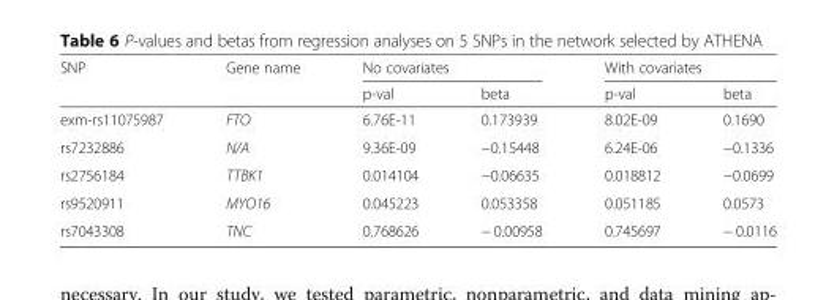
<table><thead><tr><td rowspan="2">SNP</td><td rowspan="2">Gene name</td><td colspan="2">No covariates</td><td colspan="2">With covariates</td></tr><tr><td>p-val</td><td>beta</td><td>p-val</td><td>beta</td></tr></thead><tbody><tr><td>exm-rs11075987</td><td>FTO</td><td>6.76E-11</td><td>0.173939</td><td>8.02E-09</td><td>0.1690</td></tr><tr><td>rs7232886</td><td>N/A</td><td>9.36E-09</td><td>−0.15448</td><td>6.24E-06</td><td>−0.1336</td></tr><tr><td>rs2756184</td><td>TTBK1</td><td>0.014104</td><td>−0.06635</td><td>0.018812</td><td>−0.0699</td></tr><tr><td>rs9520911</td><td>MYO16</td><td>0.045223</td><td>0.053358</td><td>0.051185</td><td>0.0573</td></tr><tr><td>rs7043308</td><td>TNC</td><td>0.768626</td><td>− 0.00958</td><td>0.745697</td><td>− 0.0116</td></tr></tbody></table>